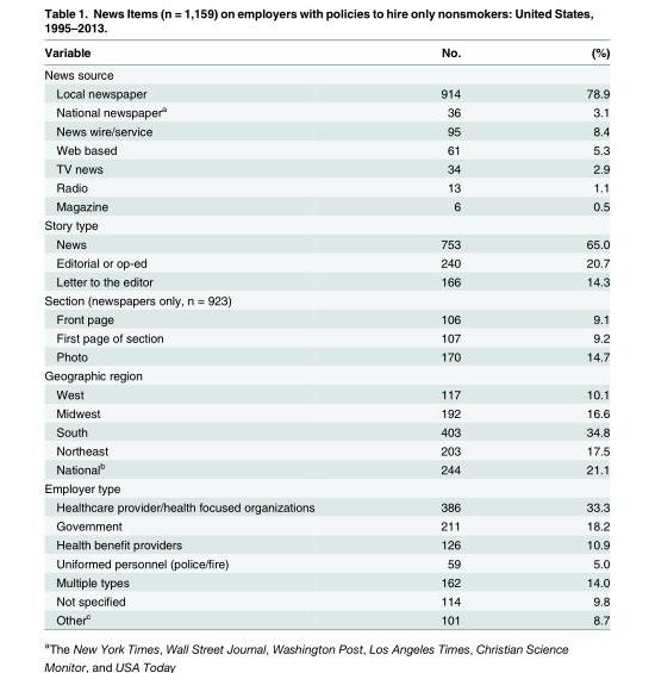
<table><thead><tr><td>Variable</td><td>No.</td><td>(%)</td></tr></thead><tbody><tr><td colspan="3">News source</td></tr><tr><td>Local newspaper</td><td>914</td><td>78.9</td></tr><tr><td>National newspaper<sup>a</sup></td><td>36</td><td>3.1</td></tr><tr><td>News wire/service</td><td>95</td><td>8.4</td></tr><tr><td>Web based</td><td>61</td><td>5.3</td></tr><tr><td>TV news</td><td>34</td><td>2.9</td></tr><tr><td>Radio</td><td>13</td><td>1.1</td></tr><tr><td>Magazine</td><td>6</td><td>0.5</td></tr><tr><td colspan="3">Story type</td></tr><tr><td>News</td><td>753</td><td>65.0</td></tr><tr><td>Editorial or op-ed</td><td>240</td><td>20.7</td></tr><tr><td>Letter to the editor</td><td>166</td><td>14.3</td></tr><tr><td colspan="3">Section (newspapers only, n = 923)</td></tr><tr><td>Front page</td><td>106</td><td>9.1</td></tr><tr><td>First page of section</td><td>107</td><td>9.2</td></tr><tr><td>Photo</td><td>170</td><td>14.7</td></tr><tr><td colspan="3">Geographic region</td></tr><tr><td>West</td><td>117</td><td>10.1</td></tr><tr><td>Midwest</td><td>192</td><td>16.6</td></tr><tr><td>South</td><td>403</td><td>34.8</td></tr><tr><td>Northeast</td><td>203</td><td>17.5</td></tr><tr><td>National<sup>b</sup></td><td>244</td><td>21.1</td></tr><tr><td colspan="3">Employer type</td></tr><tr><td>Healthcare provider/health focused organizations</td><td>386</td><td>33.3</td></tr><tr><td>Government</td><td>211</td><td>18.2</td></tr><tr><td>Health benefit providers</td><td>126</td><td>10.9</td></tr><tr><td>Uniformed personnel (police/fire)</td><td>59</td><td>5.0</td></tr><tr><td>Multiple types</td><td>162</td><td>14.0</td></tr><tr><td>Not specified</td><td>114</td><td>9.8</td></tr><tr><td>Other<sup>c</sup></td><td>101</td><td>8.7</td></tr></tbody></table>